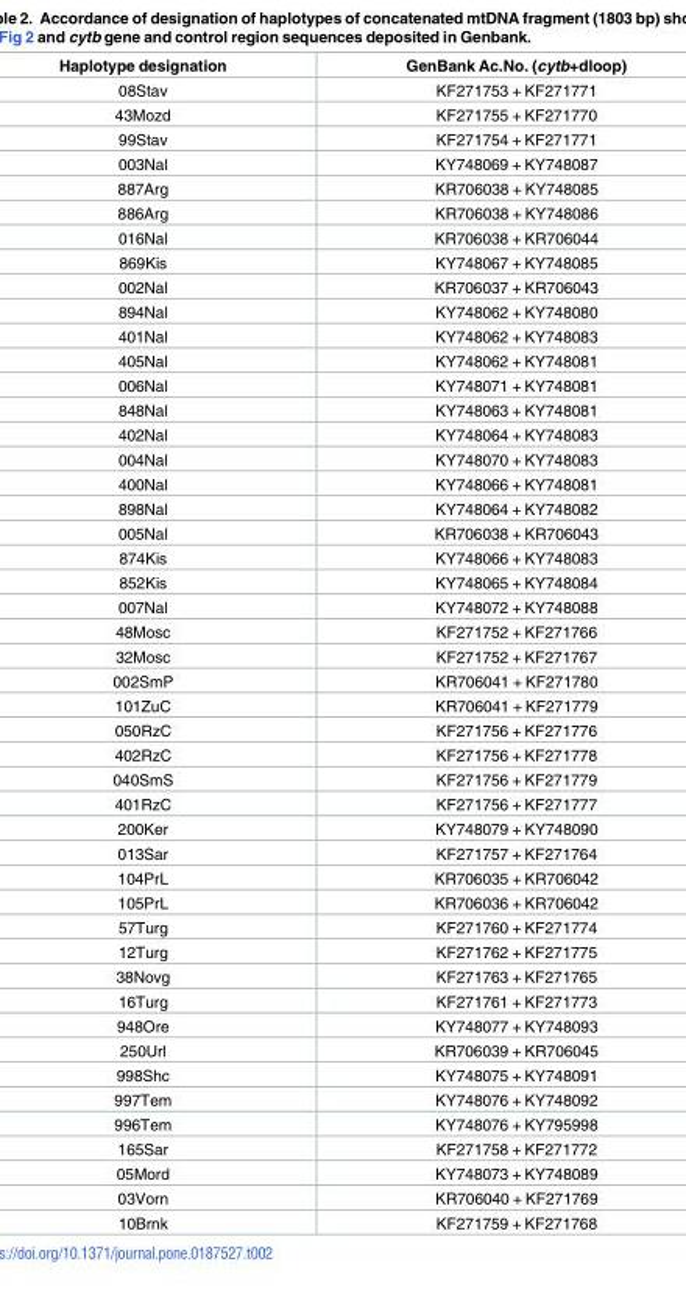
<table><thead><tr><td>Haplotype designation</td><td>GenBank Ac.No. (cytb+dloop)</td></tr></thead><tbody><tr><td>08Stav</td><td>KF271753 + KF271771</td></tr><tr><td>43Mozd</td><td>KF271755 + KF271770</td></tr><tr><td>99Stav</td><td>KF271754 + KF271771</td></tr><tr><td>003Nal</td><td>KY748069 + KY748087</td></tr><tr><td>887Arg</td><td>KR706038 + KY748085</td></tr><tr><td>886Arg</td><td>KR706038 + KY748086</td></tr><tr><td>016Nal</td><td>KR706038 + KR706044</td></tr><tr><td>869Kis</td><td>KY748067 + KY748085</td></tr><tr><td>002Nal</td><td>KR706037 + KR706043</td></tr><tr><td>894Nal</td><td>KY748062 + KY748080</td></tr><tr><td>401Nal</td><td>KY748062 + KY748083</td></tr><tr><td>405Nal</td><td>KY748062 + KY748081</td></tr><tr><td>006Nal</td><td>KY748071 + KY748081</td></tr><tr><td>848Nal</td><td>KY748063 + KY748081</td></tr><tr><td>402Nal</td><td>KY748064 + KY748083</td></tr><tr><td>004Nal</td><td>KY748070 + KY748083</td></tr><tr><td>400Nal</td><td>KY748066 + KY748081</td></tr><tr><td>898Nal</td><td>KY748064 + KY748082</td></tr><tr><td>005Nal</td><td>KR706038 + KR706043</td></tr><tr><td>874Kis</td><td>KY748066 + KY748083</td></tr><tr><td>852Kis</td><td>KY748065 + KY748084</td></tr><tr><td>007Nal</td><td>KY748072 + KY748088</td></tr><tr><td>48Mosc</td><td>KF271752 + KF271766</td></tr><tr><td>32Mosc</td><td>KF271752 + KF271767</td></tr><tr><td>002SmP</td><td>KR706041 + KF271780</td></tr><tr><td>101ZuC</td><td>KR706041 + KF271779</td></tr><tr><td>050RzC</td><td>KF271756 + KF271776</td></tr><tr><td>402RzC</td><td>KF271756 + KF271778</td></tr><tr><td>040SmS</td><td>KF271756 + KF271779</td></tr><tr><td>401RzC</td><td>KF271756 + KF271777</td></tr><tr><td>200Ker</td><td>KY748079 + KY748090</td></tr><tr><td>013Sar</td><td>KF271757 + KF271764</td></tr><tr><td>104PrL</td><td>KR706035 + KR706042</td></tr><tr><td>105PrL</td><td>KR706036 + KR706042</td></tr><tr><td>57Turg</td><td>KF271760 + KF271774</td></tr><tr><td>12Turg</td><td>KF271762 + KF271775</td></tr><tr><td>38Novg</td><td>KF271763 + KF271765</td></tr><tr><td>16Turg</td><td>KF271761 + KF271773</td></tr><tr><td>948Ore</td><td>KY748077 + KY748093</td></tr><tr><td>250Url</td><td>KR706039 + KR706045</td></tr><tr><td>998Shc</td><td>KY748075 + KY748091</td></tr><tr><td>997Tem</td><td>KY748076 + KY748092</td></tr><tr><td>996Tem</td><td>KY748076 + KY795998</td></tr><tr><td>165Sar</td><td>KF271758 + KF271772</td></tr><tr><td>05Mord</td><td>KY748073 + KY748089</td></tr><tr><td>03Vorn</td><td>KR706040 + KF271769</td></tr><tr><td>10Brnk</td><td>KF271759 + KF271768</td></tr></tbody></table>